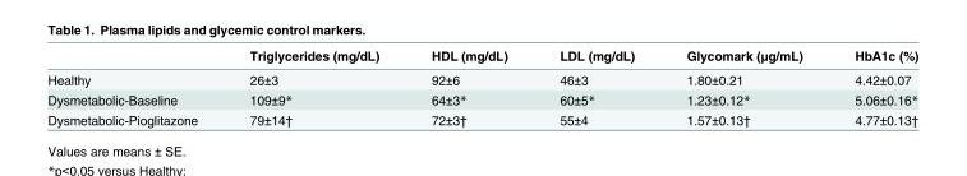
<table><thead><tr><td></td><td>Triglycerides (mg/dL)</td><td>HDL (mg/dL)</td><td>LDL (mg/dL)</td><td>Glycomark (μg/mL)</td><td>HbA1c (%)</td></tr></thead><tbody><tr><td>Healthy</td><td>26±3</td><td>92±6</td><td>46±3</td><td>1.80±0.21</td><td>4.42±0.07</td></tr><tr><td>Dysmetabolic-Baseline</td><td>109±9*</td><td>64±3*</td><td>60±5*</td><td>1.23±0.12*</td><td>5.06±0.16*</td></tr><tr><td>Dysmetabolic-Pioglitazone</td><td>79±14†</td><td>72±3†</td><td>55±4</td><td>1.57±0.13†</td><td>4.77±0.13†</td></tr></tbody></table>